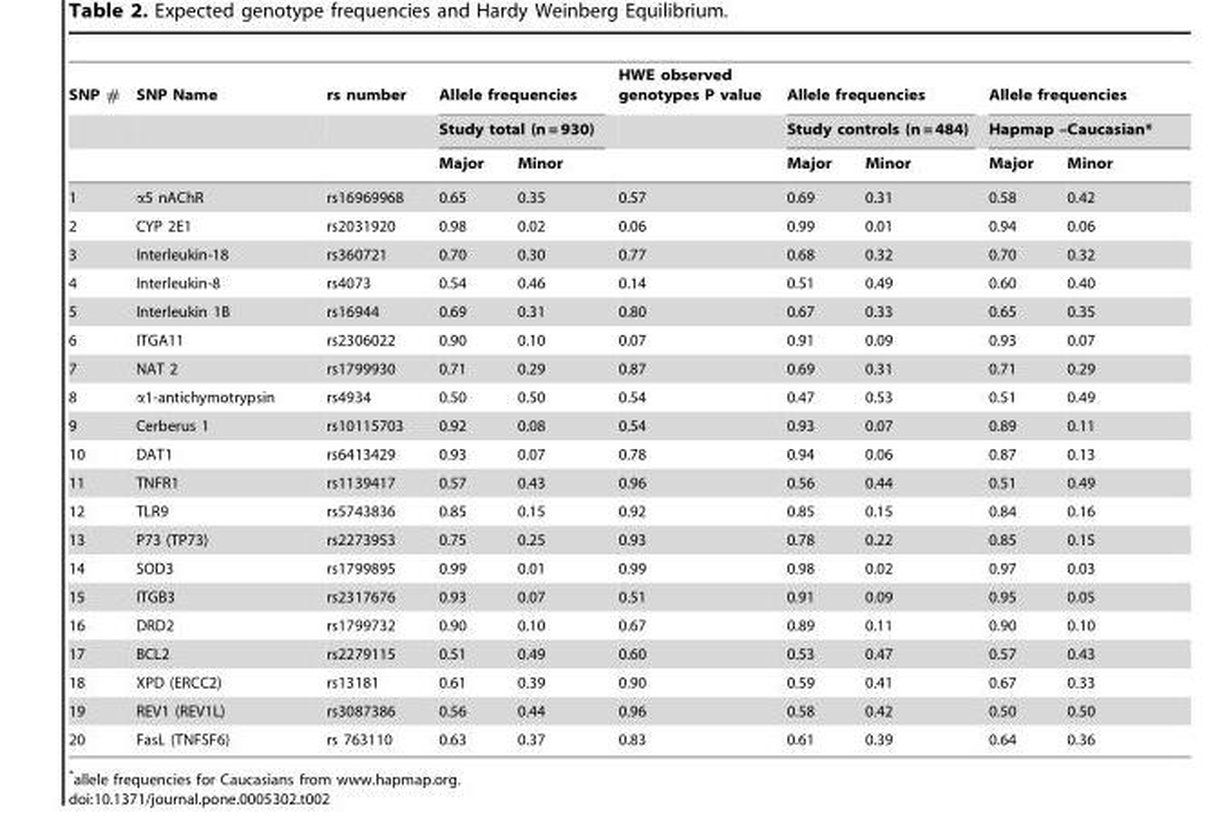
<table><thead><tr><td rowspan="3">SNP #</td><td rowspan="3">SNP Name</td><td rowspan="3">rs number</td><td rowspan="2" colspan="2">Allele frequencies Study total (n = 930)</td><td rowspan="3">HWE observed genotypes P value</td><td rowspan="2" colspan="2">Allele frequencies Study controls (n = 484)</td><td rowspan="2" colspan="2">Allele frequencies Hapmap –Caucasian*</td></tr><tr></tr><tr><td>Major</td><td>Minor</td><td>Major</td><td>Minor</td><td>Major</td><td>Minor</td></tr></thead><tbody><tr><td>1</td><td>α5 nAChR</td><td>rs16969968</td><td>0.65</td><td>0.35</td><td>0.57</td><td>0.69</td><td>0.31</td><td>0.58</td><td>0.42</td></tr><tr><td>2</td><td>CYP 2E1</td><td>rs2031920</td><td>0.98</td><td>0.02</td><td>0.06</td><td>0.99</td><td>0.01</td><td>0.94</td><td>0.06</td></tr><tr><td>3</td><td>Interleukin-18</td><td>rs360721</td><td>0.70</td><td>0.30</td><td>0.77</td><td>0.68</td><td>0.32</td><td>0.70</td><td>0.32</td></tr><tr><td>4</td><td>Interleukin-8</td><td>rs4073</td><td>0.54</td><td>0.46</td><td>0.14</td><td>0.51</td><td>0.49</td><td>0.60</td><td>0.40</td></tr><tr><td>5</td><td>Interleukin 1B</td><td>rs16944</td><td>0.69</td><td>0.31</td><td>0.80</td><td>0.67</td><td>0.33</td><td>0.65</td><td>0.35</td></tr><tr><td>6</td><td>ITGA11</td><td>rs2306022</td><td>0.90</td><td>0.10</td><td>0.07</td><td>0.91</td><td>0.09</td><td>0.93</td><td>0.07</td></tr><tr><td>7</td><td>NAT 2</td><td>rs1799930</td><td>0.71</td><td>0.29</td><td>0.87</td><td>0.69</td><td>0.31</td><td>0.71</td><td>0.29</td></tr><tr><td>8</td><td>α1-antichymotrypsin</td><td>rs4934</td><td>0.50</td><td>0.50</td><td>0.54</td><td>0.47</td><td>0.53</td><td>0.51</td><td>0.49</td></tr><tr><td>9</td><td>Cerberus 1</td><td>rs10115703</td><td>0.92</td><td>0.08</td><td>0.54</td><td>0.93</td><td>0.07</td><td>0.89</td><td>0.11</td></tr><tr><td>10</td><td>DAT1</td><td>rs6413429</td><td>0.93</td><td>0.07</td><td>0.78</td><td>0.94</td><td>0.06</td><td>0.87</td><td>0.13</td></tr><tr><td>11</td><td>TNFR1</td><td>rs1139417</td><td>0.57</td><td>0.43</td><td>0.96</td><td>0.56</td><td>0.44</td><td>0.51</td><td>0.49</td></tr><tr><td>12</td><td>TLR9</td><td>rs5743836</td><td>0.85</td><td>0.15</td><td>0.92</td><td>0.85</td><td>0.15</td><td>0.84</td><td>0.16</td></tr><tr><td>13</td><td>P73 (TP73)</td><td>rs2273953</td><td>0.75</td><td>0.25</td><td>0.93</td><td>0.78</td><td>0.22</td><td>0.85</td><td>0.15</td></tr><tr><td>14</td><td>SOD3</td><td>rs1799895</td><td>0.99</td><td>0.01</td><td>0.99</td><td>0.98</td><td>0.02</td><td>0.97</td><td>0.03</td></tr><tr><td>15</td><td>ITGB3</td><td>rs2317676</td><td>0.93</td><td>0.07</td><td>0.51</td><td>0.91</td><td>0.09</td><td>0.95</td><td>0.05</td></tr><tr><td>16</td><td>DRD2</td><td>rs1799732</td><td>0.90</td><td>0.10</td><td>0.67</td><td>0.89</td><td>0.11</td><td>0.90</td><td>0.10</td></tr><tr><td>17</td><td>BCL2</td><td>rs2279115</td><td>0.51</td><td>0.49</td><td>0.60</td><td>0.53</td><td>0.47</td><td>0.57</td><td>0.43</td></tr><tr><td>18</td><td>XPD (ERCC2)</td><td>rs13181</td><td>0.61</td><td>0.39</td><td>0.90</td><td>0.59</td><td>0.41</td><td>0.67</td><td>0.33</td></tr><tr><td>19</td><td>REV1 (REV1L)</td><td>rs3087386</td><td>0.56</td><td>0.44</td><td>0.96</td><td>0.58</td><td>0.42</td><td>0.50</td><td>0.50</td></tr><tr><td>20</td><td>FasL (TNFSF6)</td><td>rs 763110</td><td>0.63</td><td>0.37</td><td>0.83</td><td>0.61</td><td>0.39</td><td>0.64</td><td>0.36</td></tr></tbody></table>